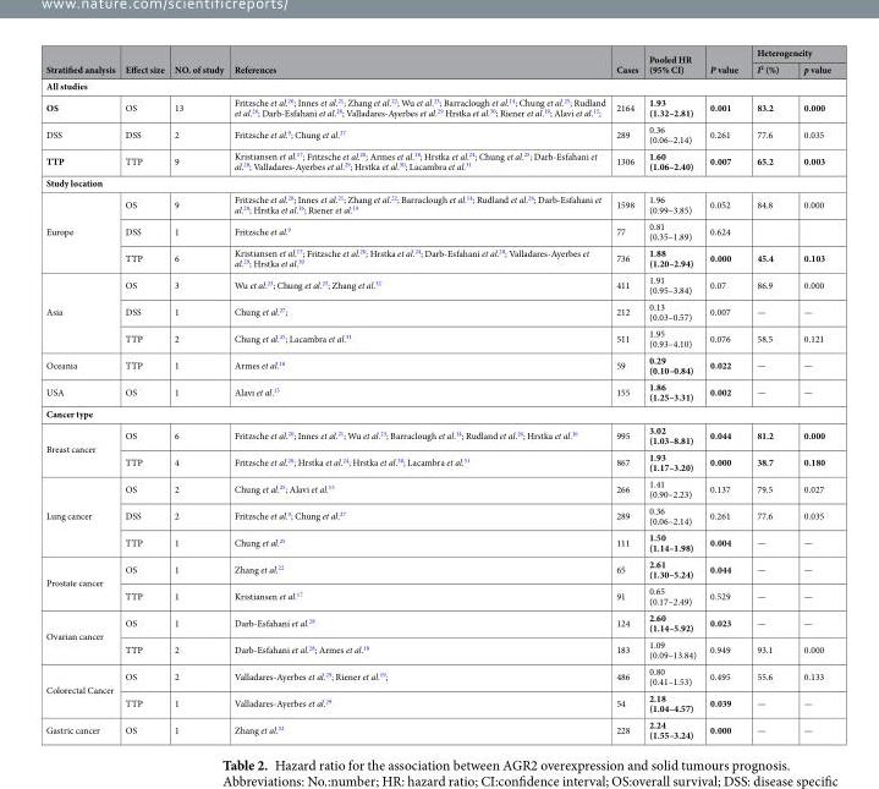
<table><thead><tr><td rowspan="2">Stratified analysis</td><td rowspan="2">Effect size</td><td rowspan="2">NO. of study</td><td rowspan="2">References</td><td rowspan="2">Cases</td><td rowspan="2">Pooled HR (95% CI)</td><td rowspan="2">P value</td><td colspan="2">Heterogeneity</td></tr><tr><td>I<sup>2</sup> (%)</td><td>p value</td></tr></thead><tbody><tr><td colspan="9">All studies</td></tr><tr><td>OS</td><td>OS</td><td>13</td><td>Fritzsche et al.<sup>20</sup>; Innes et al.<sup>21</sup>; Zhang et al.<sup>22</sup>; Wu et al.<sup>23</sup>; Barraclough et al.<sup>14</sup>; Chung et al.<sup>25</sup>; Rudland et al.<sup>26</sup>; Darb-Esfahani et al.<sup>28</sup>; Valladares-Ayerbes et al.<sup>29</sup> Hrstka et al.<sup>30</sup>; Riener et al.<sup>19</sup>; Alavi et al.<sup>15</sup>;</td><td>2164</td><td>1.93 (1.32–2.81)</td><td>0.001</td><td>83.2</td><td>0.000</td></tr><tr><td>DSS</td><td>DSS</td><td>2</td><td>Fritzsche et al.<sup>9</sup>; Chung et al.<sup>27</sup></td><td>289</td><td>0.36 (0.06–2.14)</td><td>0.261</td><td>77.6</td><td>0.035</td></tr><tr><td>TTP</td><td>TTP</td><td>9</td><td>Kristiansen et al.<sup>17</sup>; Fritzsche et al.<sup>20</sup>; Armes et al.<sup>18</sup>; Hrstka et al.<sup>24</sup>; Chung et al.<sup>25</sup>; Darb-Esfahani et al.<sup>28</sup>; Valladares-Ayerbes et al.<sup>29</sup>; Hrstka et al.<sup>30</sup>; Lacambra et al.<sup>31</sup></td><td>1306</td><td>1.60 (1.06–2.40)</td><td>0.007</td><td>65.2</td><td>0.003</td></tr><tr><td colspan="9">Study location</td></tr><tr><td rowspan="3">Europe</td><td>OS</td><td>9</td><td>Fritzsche et al.<sup>20</sup>; Innes et al.<sup>21</sup>; Zhang et al.<sup>22</sup>; Barraclough et al.<sup>14</sup>; Rudland et al.<sup>26</sup>; Darb-Esfahani et al.<sup>28</sup>; Hrstka et al.<sup>16</sup>; Riener et al.<sup>19</sup></td><td>1598</td><td>1.96 (0.99–3.85)</td><td>0.052</td><td>84.8</td><td>0.000</td></tr><tr><td>DSS</td><td>1</td><td>Fritzsche et al.<sup>9</sup></td><td>77</td><td>0.81 (0.35–1.89)</td><td>0.624</td><td></td><td></td></tr><tr><td>TTP</td><td>6</td><td>Kristiansen et al.<sup>17</sup>; Fritzsche et al.<sup>20</sup>; Hrstka et al.<sup>24</sup>; Darb-Esfahani et al.<sup>28</sup>; Valladares-Ayerbes et al.<sup>29</sup>; Hrstka et al.<sup>30</sup></td><td>736</td><td>1.88 (1.20–2.94)</td><td>0.000</td><td>45.4</td><td>0.103</td></tr><tr><td rowspan="3">Asia</td><td>OS</td><td>3</td><td>Wu et al.<sup>23</sup>; Chung et al.<sup>25</sup>; Zhang et al.<sup>32</sup></td><td>411</td><td>1.91 (0.95–3.84)</td><td>0.07</td><td>86.9</td><td>0.000</td></tr><tr><td>DSS</td><td>1</td><td>Chung et al.<sup>27</sup>;</td><td>212</td><td>0.13 (0.03–0.57)</td><td>0.007</td><td>—</td><td>—</td></tr><tr><td>TTP</td><td>2</td><td>Chung et al.<sup>25</sup>; Lacambra et al.<sup>31</sup></td><td>511</td><td>1.95 (0.93–4.10)</td><td>0.076</td><td>58.5</td><td>0.121</td></tr><tr><td>Oceania</td><td>TTP</td><td>1</td><td>Armes et al.<sup>18</sup></td><td>59</td><td>0.29 (0.10–0.84)</td><td>0.022</td><td>—</td><td>—</td></tr><tr><td>USA</td><td>OS</td><td>1</td><td>Alavi et al.<sup>15</sup></td><td>155</td><td>1.86 (1.25–3.31)</td><td>0.002</td><td>—</td><td>—</td></tr><tr><td colspan="9">Cancer type</td></tr><tr><td rowspan="2">Breast cancer</td><td>OS</td><td>6</td><td>Fritzsche et al.<sup>20</sup>; Innes et al.<sup>21</sup>; Wu et al.<sup>23</sup>; Barraclough et al.<sup>14</sup>; Rudland et al.<sup>26</sup>; Hrstka et al.<sup>16</sup></td><td>995</td><td>3.02 (1.03–8.81)</td><td>0.044</td><td>81.2</td><td>0.000</td></tr><tr><td>TTP</td><td>4</td><td>Fritzsche et al.<sup>20</sup>; Hrstka et al.<sup>24</sup>; Hrstka et al.<sup>30</sup>; Lacambra et al.<sup>31</sup></td><td>867</td><td>1.93 (1.17–3.20)</td><td>0.000</td><td>38.7</td><td>0.180</td></tr><tr><td rowspan="3">Lung cancer</td><td>OS</td><td>2</td><td>Chung et al.<sup>25</sup>; Alavi et al.<sup>15</sup></td><td>266</td><td>1.41 (0.90–2.23)</td><td>0.137</td><td>79.5</td><td>0.027</td></tr><tr><td>DSS</td><td>2</td><td>Fritzsche et al.<sup>9</sup>; Chung et al.<sup>27</sup></td><td>289</td><td>0.36 (0.06–2.14)</td><td>0.261</td><td>77.6</td><td>0.035</td></tr><tr><td>TTP</td><td>1</td><td>Chung et al.<sup>25</sup></td><td>111</td><td>1.50 (1.14–1.98)</td><td>0.004</td><td>—</td><td>—</td></tr><tr><td rowspan="2">Prostate cancer</td><td>OS</td><td>1</td><td>Zhang et al.<sup>22</sup></td><td>65</td><td>2.61 (1.30–5.24)</td><td>0.044</td><td>—</td><td>—</td></tr><tr><td>TTP</td><td>1</td><td>Kristiansen et al.<sup>17</sup></td><td>91</td><td>0.65 (0.17–2.49)</td><td>0.529</td><td>—</td><td>—</td></tr><tr><td rowspan="2">Ovarian cancer</td><td>OS</td><td>1</td><td>Darb-Esfahani et al.<sup>28</sup></td><td>124</td><td>2.60 (1.14–5.92)</td><td>0.023</td><td>—</td><td>—</td></tr><tr><td>TTP</td><td>2</td><td>Darb-Esfahani et al.<sup>28</sup>; Armes et al.<sup>18</sup></td><td>183</td><td>1.09 (0.09–13.84)</td><td>0.949</td><td>93.1</td><td>0.000</td></tr><tr><td rowspan="2">Colorectal Cancer</td><td>OS</td><td>2</td><td>Valladares-Ayerbes et al.<sup>29</sup>; Riener et al.<sup>19</sup>;</td><td>486</td><td>0.80 (0.41–1.53)</td><td>0.495</td><td>55.6</td><td>0.133</td></tr><tr><td>TTP</td><td>1</td><td>Valladares-Ayerbes et al.<sup>29</sup></td><td>54</td><td>2.18 (1.04–4.57)</td><td>0.039</td><td>—</td><td>—</td></tr><tr><td>Gastric cancer</td><td>OS</td><td>1</td><td>Zhang et al.<sup>32</sup></td><td>228</td><td>2.24 (1.55–3.24)</td><td>0.000</td><td>—</td><td>—</td></tr></tbody></table>